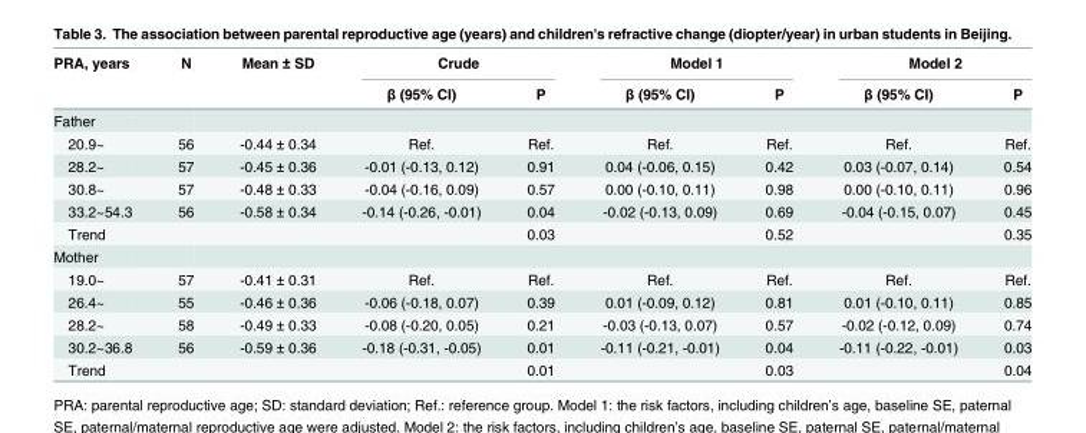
<table><thead><tr><td rowspan="2">PRA, years</td><td rowspan="2">N</td><td rowspan="2">Mean ± SD</td><td colspan="2">Crude</td><td colspan="2">Model 1</td><td colspan="2">Model 2</td></tr><tr><td>β (95% CI)</td><td>P</td><td>β (95% CI)</td><td>P</td><td>β (95% CI)</td><td>P</td></tr></thead><tbody><tr><td colspan="9">Father</td></tr><tr><td>20.9~</td><td>56</td><td>-0.44 ± 0.34</td><td>Ref.</td><td>Ref.</td><td>Ref.</td><td>Ref.</td><td>Ref.</td><td>Ref.</td></tr><tr><td>28.2~</td><td>57</td><td>-0.45 ± 0.36</td><td>-0.01 (-0.13, 0.12)</td><td>0.91</td><td>0.04 (-0.06, 0.15)</td><td>0.42</td><td>0.03 (-0.07, 0.14)</td><td>0.54</td></tr><tr><td>30.8~</td><td>57</td><td>-0.48 ± 0.33</td><td>-0.04 (-0.16, 0.09)</td><td>0.57</td><td>0.00 (-0.10, 0.11)</td><td>0.98</td><td>0.00 (-0.10, 0.11)</td><td>0.96</td></tr><tr><td>33.2~54.3</td><td>56</td><td>-0.58 ± 0.34</td><td>-0.14 (-0.26, -0.01)</td><td>0.04</td><td>-0.02 (-0.13, 0.09)</td><td>0.69</td><td>-0.04 (-0.15, 0.07)</td><td>0.45</td></tr><tr><td>Trend</td><td></td><td></td><td></td><td>0.03</td><td></td><td>0.52</td><td></td><td>0.35</td></tr><tr><td colspan="9">Mother</td></tr><tr><td>19.0~</td><td>57</td><td>-0.41 ± 0.31</td><td>Ref.</td><td>Ref.</td><td>Ref.</td><td>Ref.</td><td>Ref.</td><td>Ref.</td></tr><tr><td>26.4~</td><td>55</td><td>-0.46 ± 0.36</td><td>-0.06 (-0.18, 0.07)</td><td>0.39</td><td>0.01 (-0.09, 0.12)</td><td>0.81</td><td>0.01 (-0.10, 0.11)</td><td>0.85</td></tr><tr><td>28.2~</td><td>58</td><td>-0.49 ± 0.33</td><td>-0.08 (-0.20, 0.05)</td><td>0.21</td><td>-0.03 (-0.13, 0.07)</td><td>0.57</td><td>-0.02 (-0.12, 0.09)</td><td>0.74</td></tr><tr><td>30.2~36.8</td><td>56</td><td>-0.59 ± 0.36</td><td>-0.18 (-0.31, -0.05)</td><td>0.01</td><td>-0.11 (-0.21, -0.01)</td><td>0.04</td><td>-0.11 (-0.22, -0.01)</td><td>0.03</td></tr><tr><td>Trend</td><td></td><td></td><td></td><td>0.01</td><td></td><td>0.03</td><td></td><td>0.04</td></tr></tbody></table>